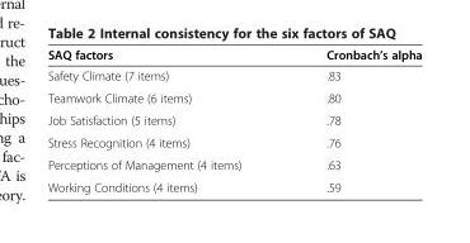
<table><thead><tr><td>SAQ factors</td><td>Cronbach’s alpha</td></tr></thead><tbody><tr><td>Safety Climate (7 items)</td><td>.83</td></tr><tr><td>Teamwork Climate (6 items)</td><td>.80</td></tr><tr><td>Job Satisfaction (5 items)</td><td>.78</td></tr><tr><td>Stress Recognition (4 items)</td><td>.76</td></tr><tr><td>Perceptions of Management (4 items)</td><td>.63</td></tr><tr><td>Working Conditions (4 items)</td><td>.59</td></tr></tbody></table>